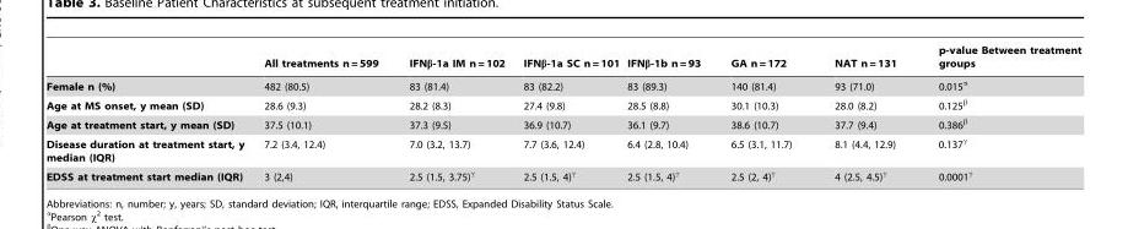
<table><thead><tr><td></td><td>All treatments n = 599</td><td>IFNβ-1a IM n = 102</td><td>IFNβ-1a SC n = 101</td><td>IFNβ-1b n = 93</td><td>GA n = 172</td><td>NAT n = 131</td><td>p-value Between treatment groups</td></tr></thead><tbody><tr><td>Female n (%)</td><td>482 (80.5)</td><td>83 (81.4)</td><td>83 (82.2)</td><td>83 (89.3)</td><td>140 (81.4)</td><td>93 (71.0)</td><td>0.015α</td></tr><tr><td>Age at MS onset, y mean (SD)</td><td>28.6 (9.3)</td><td>28.2 (8.3)</td><td>27.4 (9.8)</td><td>28.5 (8.8)</td><td>30.1 (10.3)</td><td>28.0 (8.2)</td><td>0.125β</td></tr><tr><td>Age at treatment start, y mean (SD)</td><td>37.5 (10.1)</td><td>37.3 (9.5)</td><td>36.9 (10.7)</td><td>36.1 (9.7)</td><td>38.6 (10.7)</td><td>37.7 (9.4)</td><td>0.386β</td></tr><tr><td>Disease duration at treatment start, y median (IQR)</td><td>7.2 (3.4, 12.4)</td><td>7.0 (3.2, 13.7)</td><td>7.7 (3.6, 12.4)</td><td>6.4 (2.8, 10.4)</td><td>6.5 (3.1, 11.7)</td><td>8.1 (4.4, 12.9)</td><td>0.137γ</td></tr><tr><td>EDSS at treatment start median (IQR)</td><td>3 (2,4)</td><td>2.5 (1.5, 3.75)γ</td><td>2.5 (1.5, 4)γ</td><td>2.5 (1.5, 4)γ</td><td>2.5 (2, 4)γ</td><td>4 (2.5, 4.5)γ</td><td>0.0001γ</td></tr></tbody></table>